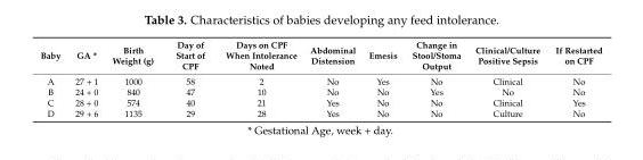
<table><thead><tr><td>Baby</td><td>GA *</td><td>Birth Weight (g)</td><td>Day of Start of CPF</td><td>Days on CPF When Intolerance Noted</td><td>Abdominal Distension</td><td>Emesis</td><td>Change in Stool/Stoma Output</td><td>Clinical/Culture Positive Sepsis</td><td>If Restarted on CPF</td></tr></thead><tbody><tr><td>A</td><td>27 + 1</td><td>1000</td><td>58</td><td>2</td><td>No</td><td>Yes</td><td>No</td><td>Clinical</td><td>No</td></tr><tr><td>B</td><td>24 + 0</td><td>840</td><td>47</td><td>10</td><td>No</td><td>No</td><td>Yes</td><td>No</td><td>No</td></tr><tr><td>C</td><td>28 + 0</td><td>574</td><td>40</td><td>21</td><td>Yes</td><td>No</td><td>No</td><td>Clinical</td><td>Yes</td></tr><tr><td>D</td><td>29 + 6</td><td>1135</td><td>29</td><td>28</td><td>Yes</td><td>No</td><td>No</td><td>Culture</td><td>No</td></tr></tbody></table>